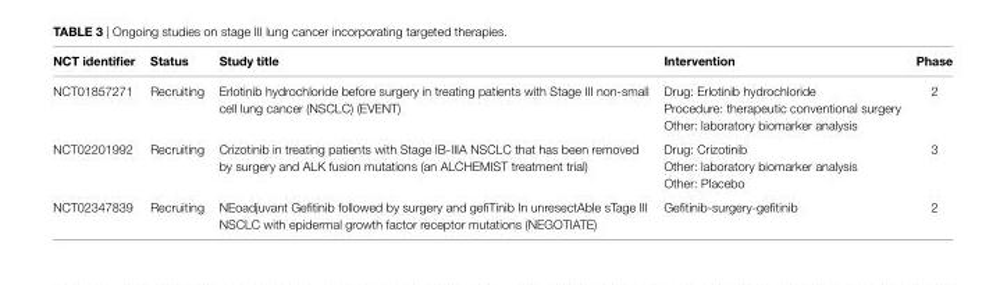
<table><thead><tr><td>nCT identifier</td><td>Status</td><td>Study title</td><td>intervention</td><td>Phase</td></tr></thead><tbody><tr><td rowspan="3">NCT01857271</td><td rowspan="3">Recruiting</td><td rowspan="3">Erlotinib hydrochloride before surgery in treating patients with Stage III non-small cell lung cancer (NSCLC) (EVENT)</td><td>Drug: Erlotinib hydrochloride</td><td rowspan="3">2</td></tr><tr><td>Procedure: therapeutic conventional surgery</td></tr><tr><td>Other: laboratory biomarker analysis</td></tr><tr><td rowspan="3">NCT02201992</td><td rowspan="3">Recruiting</td><td rowspan="3">Crizotinib in treating patients with Stage IB-IIIA NSCLC that has been removed by surgery and ALK fusion mutations (an ALCHEMIST treatment trial)</td><td>Drug: Crizotinib</td><td rowspan="3">3</td></tr><tr><td>Other: laboratory biomarker analysis</td></tr><tr><td>Other: Placebo</td></tr><tr><td>NCT02347839</td><td>Recruiting</td><td>NEoadjuvant Gefitinib followed by surgery and gefiTinib In unresectAble sTage III NSCLC with epidermal growth factor receptor mutations (NEGOTIATE)</td><td>Gefitinib-surgery-gefitinib</td><td>2</td></tr></tbody></table>